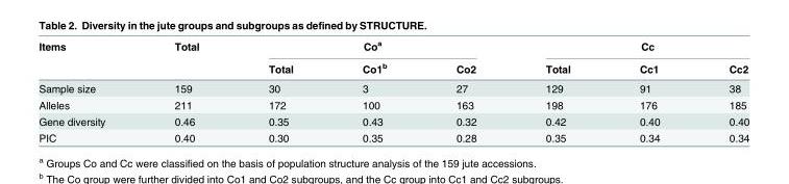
<table><thead><tr><td rowspan="2">Items</td><td rowspan="2">Total</td><td colspan="3">Co<sup>a</sup></td><td colspan="3">Cc</td></tr><tr><td>Total</td><td>Co1<sup>b</sup></td><td>Co2</td><td>Total</td><td>Cc1</td><td>Cc2</td></tr></thead><tbody><tr><td>Sample size</td><td>159</td><td>30</td><td>3</td><td>27</td><td>129</td><td>91</td><td>38</td></tr><tr><td>Alleles</td><td>211</td><td>172</td><td>100</td><td>163</td><td>198</td><td>176</td><td>185</td></tr><tr><td>Gene diversity</td><td>0.46</td><td>0.35</td><td>0.43</td><td>0.32</td><td>0.42</td><td>0.40</td><td>0.40</td></tr><tr><td>PIC</td><td>0.40</td><td>0.30</td><td>0.35</td><td>0.28</td><td>0.35</td><td>0.34</td><td>0.34</td></tr></tbody></table>